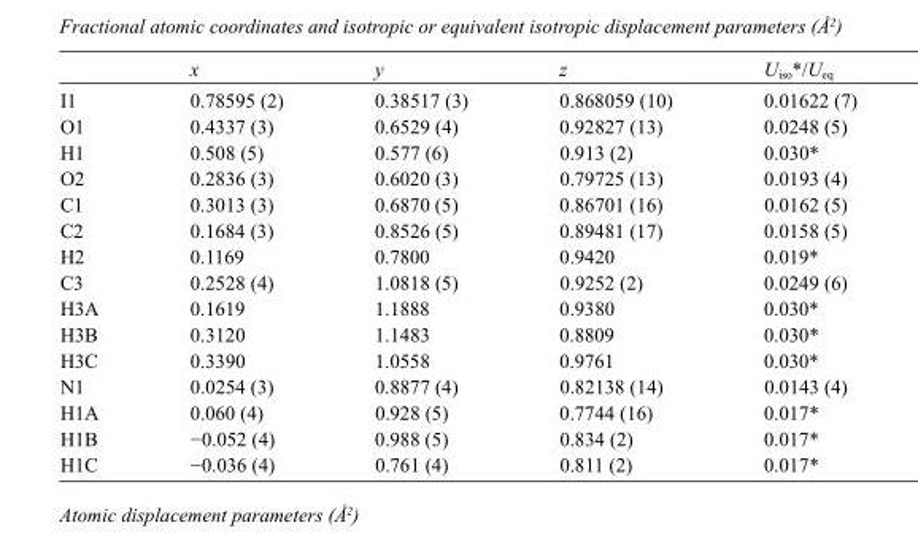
<table><thead><tr><td></td><td>x</td><td>y</td><td>z</td><td>U<sub>iso</sub>*/U<sub>eq</sub></td></tr></thead><tbody><tr><td>I1</td><td>0.78595 (2)</td><td>0.38517 (3)</td><td>0.868059 (10)</td><td>0.01622 (7)</td></tr><tr><td>O1</td><td>0.4337 (3)</td><td>0.6529 (4)</td><td>0.92827 (13)</td><td>0.0248 (5)</td></tr><tr><td>H1</td><td>0.508 (5)</td><td>0.577 (6)</td><td>0.913 (2)</td><td>0.030*</td></tr><tr><td>O2</td><td>0.2836 (3)</td><td>0.6020 (3)</td><td>0.79725 (13)</td><td>0.0193 (4)</td></tr><tr><td>C1</td><td>0.3013 (3)</td><td>0.6870 (5)</td><td>0.86701 (16)</td><td>0.0162 (5)</td></tr><tr><td>C2</td><td>0.1684 (3)</td><td>0.8526 (5)</td><td>0.89481 (17)</td><td>0.0158 (5)</td></tr><tr><td>H2</td><td>0.1169</td><td>0.7800</td><td>0.9420</td><td>0.019*</td></tr><tr><td>C3</td><td>0.2528 (4)</td><td>1.0818 (5)</td><td>0.9252 (2)</td><td>0.0249 (6)</td></tr><tr><td>H3A</td><td>0.1619</td><td>1.1888</td><td>0.9380</td><td>0.030*</td></tr><tr><td>H3B</td><td>0.3120</td><td>1.1483</td><td>0.8809</td><td>0.030*</td></tr><tr><td>H3C</td><td>0.3390</td><td>1.0558</td><td>0.9761</td><td>0.030*</td></tr><tr><td>N1</td><td>0.0254 (3)</td><td>0.8877 (4)</td><td>0.82138 (14)</td><td>0.0143 (4)</td></tr><tr><td>H1A</td><td>0.060 (4)</td><td>0.928 (5)</td><td>0.7744 (16)</td><td>0.017*</td></tr><tr><td>H1B</td><td>−0.052 (4)</td><td>0.988 (5)</td><td>0.834 (2)</td><td>0.017*</td></tr><tr><td>H1C</td><td>−0.036 (4)</td><td>0.761 (4)</td><td>0.811 (2)</td><td>0.017*</td></tr></tbody></table>